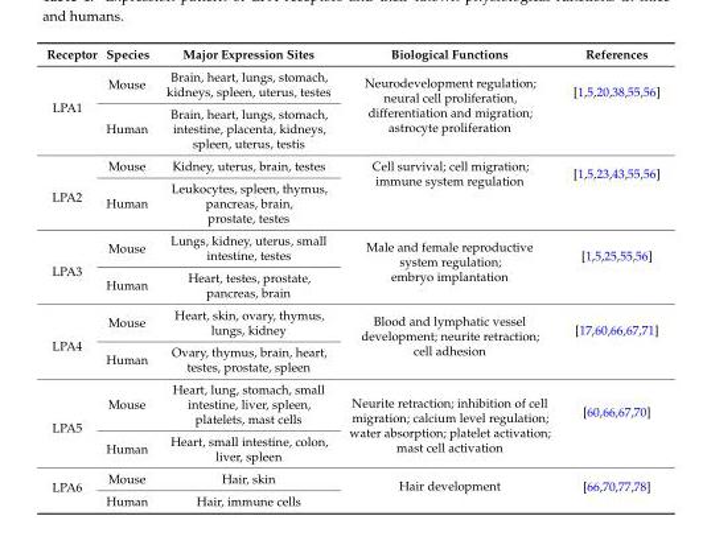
<table><thead><tr><td>Receptor</td><td>Species</td><td>Major Expression Sites</td><td>Biological Functions</td><td>References</td></tr></thead><tbody><tr><td rowspan="2">LPA1</td><td>Mouse</td><td>Brain, heart, lungs, stomach, kidneys, spleen, uterus, testes</td><td rowspan="2">Neurodevelopment regulation; neural cell proliferation, differentiation and migration; astrocyte proliferation</td><td rowspan="2">[1,5,20,38,55,56]</td></tr><tr><td>Human</td><td>Brain, heart, lungs, stomach, intestine, placenta, kidneys, spleen, uterus, testis</td></tr><tr><td rowspan="2">LPA2</td><td>Mouse</td><td>Kidney, uterus, brain, testes</td><td rowspan="2">Cell survival; cell migration; immune system regulation</td><td rowspan="2">[1,5,23,43,55,56]</td></tr><tr><td>Human</td><td>Leukocytes, spleen, thymus, pancreas, brain, prostate, testes</td></tr><tr><td rowspan="2">LPA3</td><td>Mouse</td><td>Lungs, kidney, uterus, small intestine, testes</td><td rowspan="2">Male and female reproductive system regulation; embryo implantation</td><td rowspan="2">[1,5,25,55,56]</td></tr><tr><td>Human</td><td>Heart, testes, prostate, pancreas, brain</td></tr><tr><td rowspan="2">LPA4</td><td>Mouse</td><td>Heart, skin, ovary, thymus, lungs, kidney</td><td rowspan="2">Blood and lymphatic vessel development; neurite retraction; cell adhesion</td><td rowspan="2">[17,60,66,67,71]</td></tr><tr><td>Human</td><td>Ovary, thymus, brain, heart, testes, prostate, spleen</td></tr><tr><td rowspan="2">LPA5</td><td>Mouse</td><td>Heart, lung, stomach, small intestine, liver, spleen, platelets, mast cells</td><td rowspan="2">Neurite retraction; inhibition of cell migration; calcium level regulation; water absorption; platelet activation; mast cell activation</td><td rowspan="2">[60,66,67,70]</td></tr><tr><td>Human</td><td>Heart, small intestine, colon, liver, spleen</td></tr><tr><td rowspan="2">LPA6</td><td>Mouse</td><td>Hair, skin</td><td rowspan="2">Hair development</td><td rowspan="2">[66,70,77,78]</td></tr><tr><td>Human</td><td>Hair, immune cells</td></tr></tbody></table>